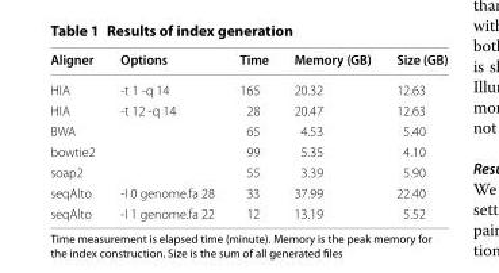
<table><thead><tr><td>Aligner</td><td>Options</td><td>Time</td><td>Memory (GB)</td><td>Size (GB)</td></tr></thead><tbody><tr><td>HIA</td><td>-t 1 -q 14</td><td>165</td><td>20.32</td><td>12.63</td></tr><tr><td>HIA</td><td>-t 12 -q 14</td><td>28</td><td>20.47</td><td>12.63</td></tr><tr><td>BWA</td><td></td><td>65</td><td>4.53</td><td>5.40</td></tr><tr><td>bowtie2</td><td></td><td>99</td><td>5.35</td><td>4.10</td></tr><tr><td>soap2</td><td></td><td>55</td><td>3.39</td><td>5.90</td></tr><tr><td>seqAlto</td><td>-I 0 genome.fa 28</td><td>33</td><td>37.99</td><td>22.40</td></tr><tr><td>seqAlto</td><td>-I 1 genome.fa 22</td><td>12</td><td>13.19</td><td>5.52</td></tr></tbody></table>